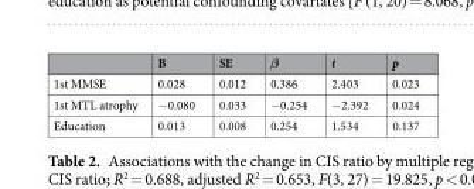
<table><thead><tr><td></td><td>B</td><td>SE</td><td>β</td><td>t</td><td>p</td></tr></thead><tbody><tr><td>1st MMSE</td><td>0.028</td><td>0.012</td><td>0.386</td><td>2.403</td><td>0.023</td></tr><tr><td>1st MTL atrophy</td><td>−0.080</td><td>0.033</td><td>−0.254</td><td>−2.392</td><td>0.024</td></tr><tr><td>Education</td><td>0.013</td><td>0.008</td><td>0.254</td><td>1.534</td><td>0.137</td></tr></tbody></table>